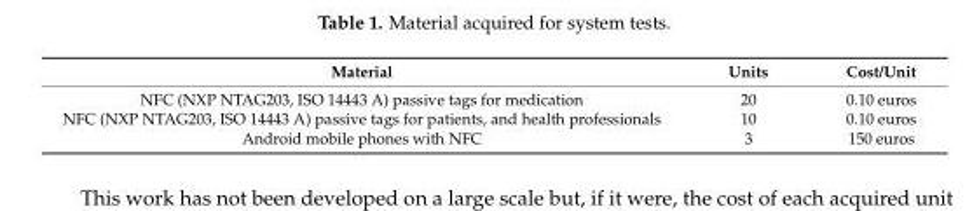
<table><thead><tr><td>Material</td><td>Units</td><td>Cost/Unit</td></tr></thead><tbody><tr><td>NFC (NXP NTAG203, ISO 14443 A) passive tags for medication</td><td>20</td><td>0.10 euros</td></tr><tr><td>NFC (NXP NTAG203, ISO 14443 A) passive tags for patients, and health professionals</td><td>10</td><td>0.10 euros</td></tr><tr><td>Android mobile phones with NFC</td><td>3</td><td>150 euros</td></tr></tbody></table>